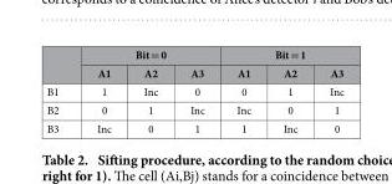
<table><thead><tr><td rowspan="2"></td><td colspan="3">Bit = 0</td><td colspan="3">Bit = 1</td></tr><tr><td>A1</td><td>A2</td><td>A3</td><td>A1</td><td>A2</td><td>A3</td></tr></thead><tbody><tr><td>B1</td><td>1</td><td>Inc</td><td>0</td><td>0</td><td>1</td><td>Inc</td></tr><tr><td>B2</td><td>0</td><td>1</td><td>Inc</td><td>Inc</td><td>0</td><td>1</td></tr><tr><td>B3</td><td>Inc</td><td>0</td><td>1</td><td>1</td><td>Inc</td><td>0</td></tr></tbody></table>